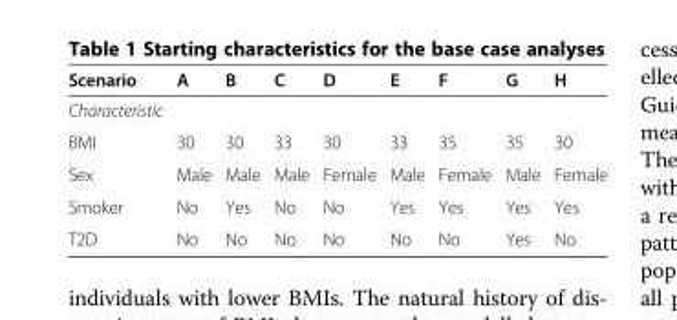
<table><thead><tr><td>Scenario</td><td>A</td><td>B</td><td>C</td><td>D</td><td>E</td><td>F</td><td>G</td><td>H</td></tr></thead><tbody><tr><td colspan="9">Characteristic</td></tr><tr><td>BMI</td><td>30</td><td>30</td><td>33</td><td>30</td><td>33</td><td>35</td><td>35</td><td>30</td></tr><tr><td>Sex</td><td>Male</td><td>Male</td><td>Male</td><td>Female</td><td>Male</td><td>Female</td><td>Male</td><td>Female</td></tr><tr><td>Smoker</td><td>No</td><td>Yes</td><td>No</td><td>No</td><td>Yes</td><td>Yes</td><td>Yes</td><td>Yes</td></tr><tr><td>T2D</td><td>No</td><td>No</td><td>No</td><td>No</td><td>No</td><td>No</td><td>Yes</td><td>No</td></tr></tbody></table>